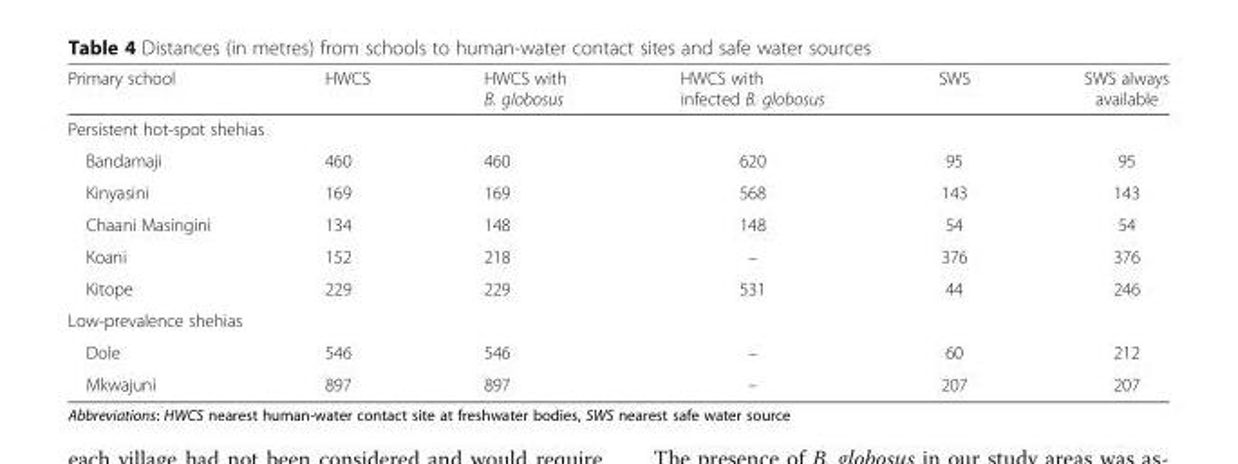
<table><thead><tr><td>Primary school</td><td>HWCS</td><td>HWCS with B. globosus</td><td>HWCS with infected B. globosus</td><td>SWS</td><td>SWS always available</td></tr></thead><tbody><tr><td colspan="6">Persistent hot-spot shehias</td></tr><tr><td>Bandamaji</td><td>460</td><td>460</td><td>620</td><td>95</td><td>95</td></tr><tr><td>Kinyasini</td><td>169</td><td>169</td><td>568</td><td>143</td><td>143</td></tr><tr><td>Chaani Masingini</td><td>134</td><td>148</td><td>148</td><td>54</td><td>54</td></tr><tr><td>Koani</td><td>152</td><td>218</td><td>–</td><td>376</td><td>376</td></tr><tr><td>Kitope</td><td>229</td><td>229</td><td>531</td><td>44</td><td>246</td></tr><tr><td colspan="6">Low-prevalence shehias</td></tr><tr><td>Dole</td><td>546</td><td>546</td><td>–</td><td>60</td><td>212</td></tr><tr><td>Mkwajuni</td><td>897</td><td>897</td><td>–</td><td>207</td><td>207</td></tr></tbody></table>